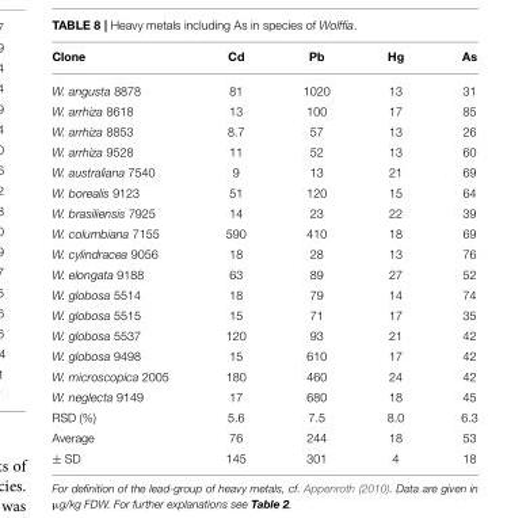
<table><thead><tr><td>Clone</td><td>Cd</td><td>Pb</td><td>Hg</td><td>As</td></tr></thead><tbody><tr><td>W. angusta 8878</td><td>81</td><td>1020</td><td>13</td><td>31</td></tr><tr><td>W. arrhiza 8618</td><td>13</td><td>100</td><td>17</td><td>85</td></tr><tr><td>W. arrhiza 8853</td><td>8.7</td><td>57</td><td>13</td><td>26</td></tr><tr><td>W. arrhiza 9528</td><td>11</td><td>52</td><td>13</td><td>60</td></tr><tr><td>W. australiana 7540</td><td>9</td><td>13</td><td>21</td><td>69</td></tr><tr><td>W. borealis 9123</td><td>51</td><td>120</td><td>15</td><td>64</td></tr><tr><td>W. brasiliensis 7925</td><td>14</td><td>23</td><td>22</td><td>39</td></tr><tr><td>W. columbiana 7155</td><td>590</td><td>410</td><td>18</td><td>69</td></tr><tr><td>W. cylindracea 9056</td><td>18</td><td>28</td><td>13</td><td>76</td></tr><tr><td>W. elongata 9188</td><td>63</td><td>89</td><td>27</td><td>52</td></tr><tr><td>W. globosa 5514</td><td>18</td><td>79</td><td>14</td><td>74</td></tr><tr><td>W. globosa 5515</td><td>15</td><td>71</td><td>17</td><td>35</td></tr><tr><td>W. globosa 5537</td><td>120</td><td>93</td><td>21</td><td>42</td></tr><tr><td>W. globosa 9498</td><td>15</td><td>610</td><td>17</td><td>42</td></tr><tr><td>W. microscopica 2005</td><td>180</td><td>460</td><td>24</td><td>42</td></tr><tr><td>W. neglecta 9149</td><td>17</td><td>680</td><td>18</td><td>45</td></tr><tr><td>RSD (%)</td><td>5.6</td><td>7.5</td><td>8.0</td><td>6.3</td></tr><tr><td>Average</td><td>76</td><td>244</td><td>18</td><td>53</td></tr><tr><td>± SD</td><td>145</td><td>301</td><td>4</td><td>18</td></tr></tbody></table>